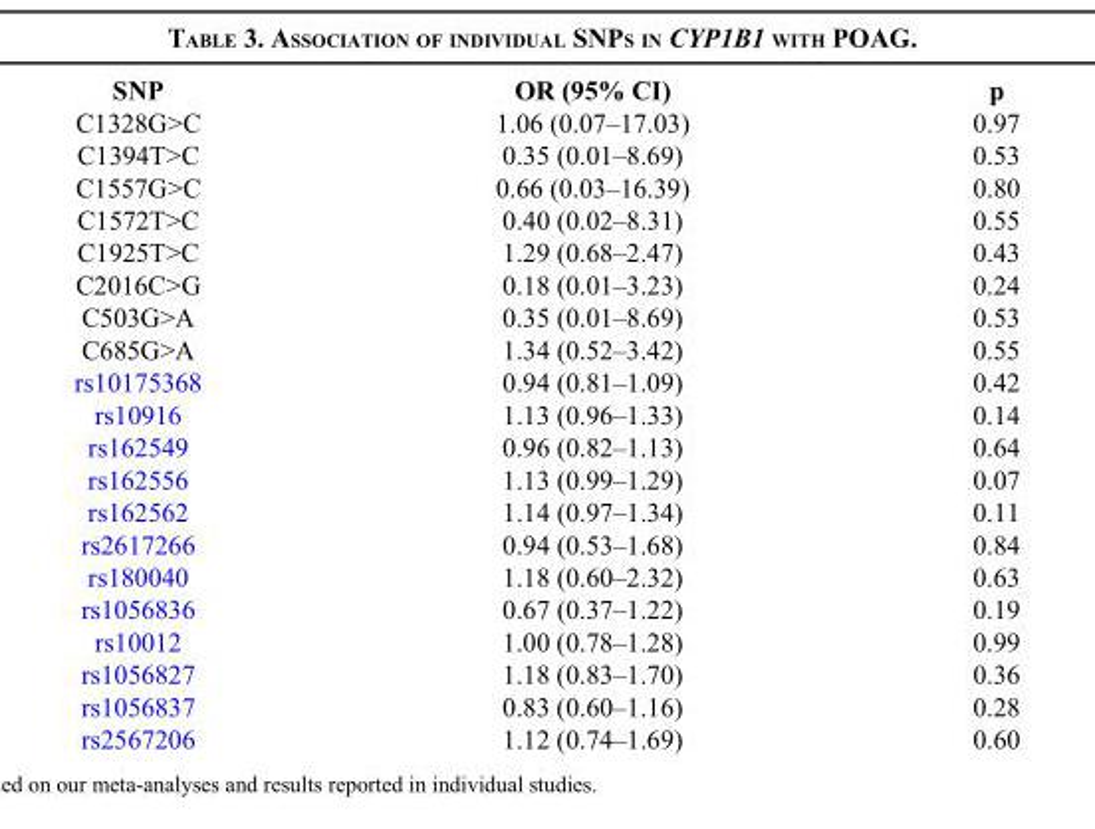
<table><thead><tr><td>SNP</td><td>OR (95% CI)</td><td>p</td></tr></thead><tbody><tr><td>C1328G&gt;C</td><td>1.06 (0.07–17.03)</td><td>0.97</td></tr><tr><td>C1394T&gt;C</td><td>0.35 (0.01–8.69)</td><td>0.53</td></tr><tr><td>C1557G&gt;C</td><td>0.66 (0.03–16.39)</td><td>0.80</td></tr><tr><td>C1572T&gt;C</td><td>0.40 (0.02–8.31)</td><td>0.55</td></tr><tr><td>C1925T&gt;C</td><td>1.29 (0.68–2.47)</td><td>0.43</td></tr><tr><td>C2016C&gt;G</td><td>0.18 (0.01–3.23)</td><td>0.24</td></tr><tr><td>C503G&gt;A</td><td>0.35 (0.01–8.69)</td><td>0.53</td></tr><tr><td>C685G&gt;A</td><td>1.34 (0.52–3.42)</td><td>0.55</td></tr><tr><td>rs10175368</td><td>0.94 (0.81–1.09)</td><td>0.42</td></tr><tr><td>rs10916</td><td>1.13 (0.96–1.33)</td><td>0.14</td></tr><tr><td>rs162549</td><td>0.96 (0.82–1.13)</td><td>0.64</td></tr><tr><td>rs162556</td><td>1.13 (0.99–1.29)</td><td>0.07</td></tr><tr><td>rs162562</td><td>1.14 (0.97–1.34)</td><td>0.11</td></tr><tr><td>rs2617266</td><td>0.94 (0.53–1.68)</td><td>0.84</td></tr><tr><td>rs180040</td><td>1.18 (0.60–2.32)</td><td>0.63</td></tr><tr><td>rs1056836</td><td>0.67 (0.37–1.22)</td><td>0.19</td></tr><tr><td>rs10012</td><td>1.00 (0.78–1.28)</td><td>0.99</td></tr><tr><td>rs1056827</td><td>1.18 (0.83–1.70)</td><td>0.36</td></tr><tr><td>rs1056837</td><td>0.83 (0.60–1.16)</td><td>0.28</td></tr><tr><td>rs2567206</td><td>1.12 (0.74–1.69)</td><td>0.60</td></tr></tbody></table>